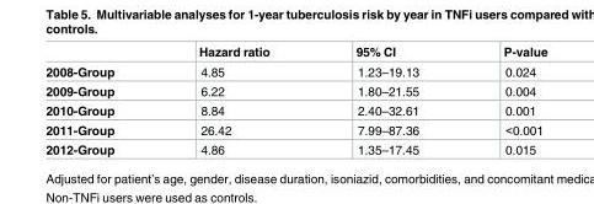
<table><thead><tr><td></td><td>Hazard ratio</td><td>95% CI</td><td>P-value</td></tr></thead><tbody><tr><td>2008-Group</td><td>4.85</td><td>1.23–19.13</td><td>0.024</td></tr><tr><td>2009-Group</td><td>6.22</td><td>1.80–21.55</td><td>0.004</td></tr><tr><td>2010-Group</td><td>8.84</td><td>2.40–32.61</td><td>0.001</td></tr><tr><td>2011-Group</td><td>26.42</td><td>7.99–87.36</td><td>&lt;0.001</td></tr><tr><td>2012-Group</td><td>4.86</td><td>1.35–17.45</td><td>0.015</td></tr></tbody></table>